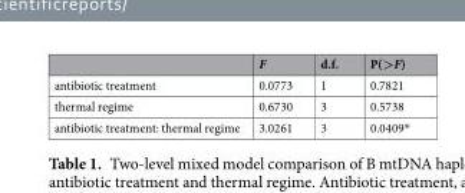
<table><thead><tr><td></td><td>F</td><td>d.f.</td><td>P(&gt;F)</td></tr></thead><tbody><tr><td>antibiotic treatment</td><td>0.0773</td><td>1</td><td>0.7821</td></tr><tr><td>thermal regime</td><td>0.6730</td><td>3</td><td>0.5738</td></tr><tr><td>antibiotic treatment: thermal regime</td><td>3.0261</td><td>3</td><td>0.0409*</td></tr></tbody></table>